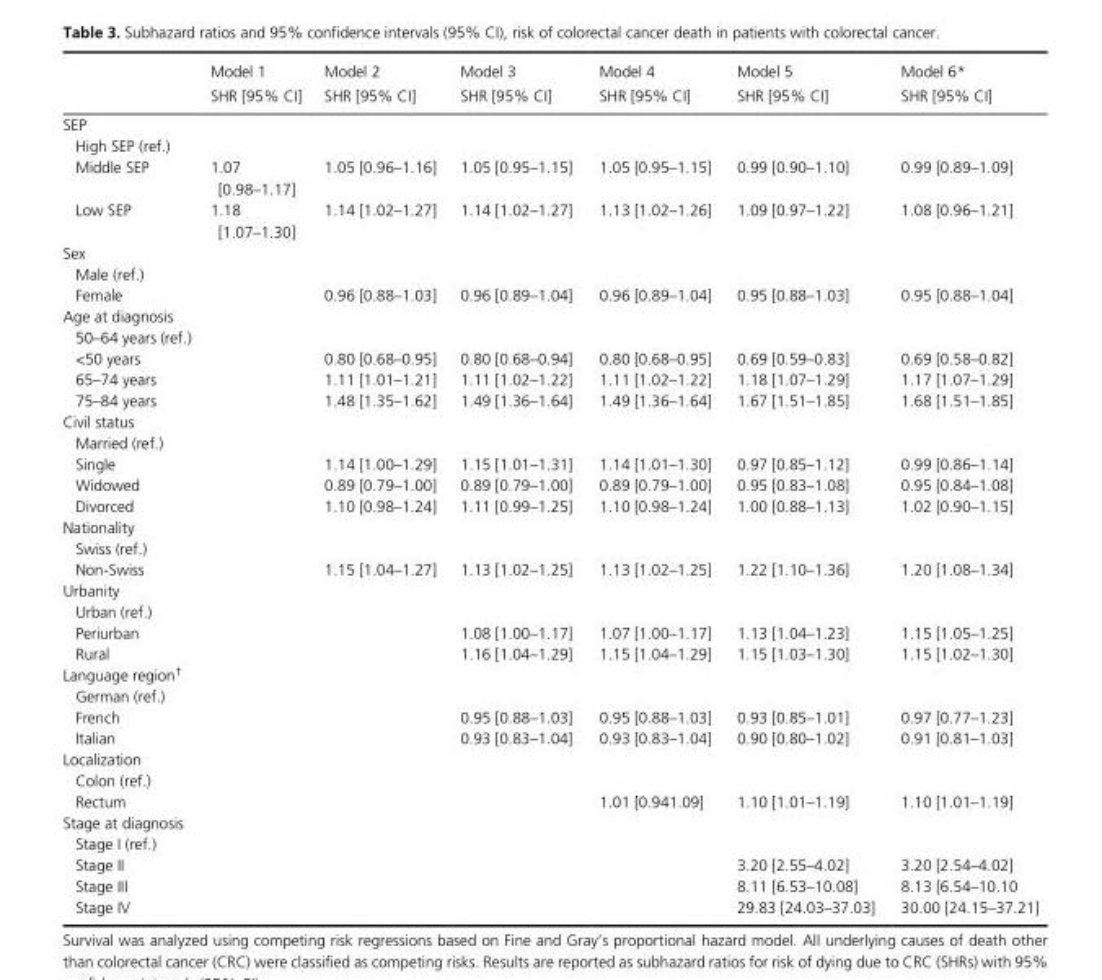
<table><thead><tr><td rowspan="2"></td><td rowspan="2">Model 1 SHR [95% CI]</td><td rowspan="2">Model 2 SHR [95% CI]</td><td rowspan="2">Model 3 SHR [95% CI]</td><td rowspan="2">Model 4 SHR [95% CI]</td><td rowspan="2">Model 5 SHR [95% CI]</td><td rowspan="2">Model 6* SHR [95% CI]</td></tr><tr></tr></thead><tbody><tr><td colspan="7">SEP</td></tr><tr><td colspan="7">High SEP (ref.)</td></tr><tr><td>Middle SEP</td><td>1.07 [0.98–1.17]</td><td>1.05 [0.96–1.16]</td><td>1.05 [0.95–1.15]</td><td>1.05 [0.95–1.15]</td><td>0.99 [0.90–1.10]</td><td>0.99 [0.89–1.09]</td></tr><tr><td>Low SEP</td><td>1.18 [1.07–1.30]</td><td>1.14 [1.02–1.27]</td><td>1.14 [1.02–1.27]</td><td>1.13 [1.02–1.26]</td><td>1.09 [0.97–1.22]</td><td>1.08 [0.96–1.21]</td></tr><tr><td colspan="7">Sex</td></tr><tr><td colspan="7">Male (ref.)</td></tr><tr><td>Female</td><td></td><td>0.96 [0.88–1.03]</td><td>0.96 [0.89–1.04]</td><td>0.96 [0.89–1.04]</td><td>0.95 [0.88–1.03]</td><td>0.95 [0.88–1.04]</td></tr><tr><td colspan="7">Age at diagnosis</td></tr><tr><td colspan="7">50–64 years (ref.)</td></tr><tr><td>&lt;50 years</td><td></td><td>0.80 [0.68–0.95]</td><td>0.80 [0.68–0.94]</td><td>0.80 [0.68–0.95]</td><td>0.69 [0.59–0.83]</td><td>0.69 [0.58–0.82]</td></tr><tr><td>65–74 years</td><td></td><td>1.11 [1.01–1.21]</td><td>1.11 [1.02–1.22]</td><td>1.11 [1.02–1.22]</td><td>1.18 [1.07–1.29]</td><td>1.17 [1.07–1.29]</td></tr><tr><td>75–84 years</td><td></td><td>1.48 [1.35–1.62]</td><td>1.49 [1.36–1.64]</td><td>1.49 [1.36–1.64]</td><td>1.67 [1.51–1.85]</td><td>1.68 [1.51–1.85]</td></tr><tr><td colspan="7">Civil status</td></tr><tr><td colspan="7">Married (ref.)</td></tr><tr><td>Single</td><td></td><td>1.14 [1.00–1.29]</td><td>1.15 [1.01–1.31]</td><td>1.14 [1.01–1.30]</td><td>0.97 [0.85–1.12]</td><td>0.99 [0.86–1.14]</td></tr><tr><td>Widowed</td><td></td><td>0.89 [0.79–1.00]</td><td>0.89 [0.79–1.00]</td><td>0.89 [0.79–1.00]</td><td>0.95 [0.83–1.08]</td><td>0.95 [0.84–1.08]</td></tr><tr><td>Divorced</td><td></td><td>1.10 [0.98–1.24]</td><td>1.11 [0.99–1.25]</td><td>1.10 [0.98–1.24]</td><td>1.00 [0.88–1.13]</td><td>1.02 [0.90–1.15]</td></tr><tr><td colspan="7">Nationality</td></tr><tr><td colspan="7">Swiss (ref.)</td></tr><tr><td>Non- Swiss</td><td></td><td>1.15 [1.04–1.27]</td><td>1.13 [1.02–1.25]</td><td>1.13 [1.02–1.25]</td><td>1.22 [1.10–1.36]</td><td>1.20 [1.08–1.34]</td></tr><tr><td colspan="7">Urbanity</td></tr><tr><td colspan="7">Urban (ref.)</td></tr><tr><td>Periurban</td><td></td><td></td><td>1.08 [1.00–1.17]</td><td>1.07 [1.00–1.17]</td><td>1.13 [1.04–1.23]</td><td>1.15 [1.05–1.25]</td></tr><tr><td>Rural</td><td></td><td></td><td>1.16 [1.04–1.29]</td><td>1.15 [1.04–1.29]</td><td>1.15 [1.03–1.30]</td><td>1.15 [1.02–1.30]</td></tr><tr><td colspan="7">Language region†</td></tr><tr><td colspan="7">German (ref.)</td></tr><tr><td>French</td><td></td><td></td><td>0.95 [0.88–1.03]</td><td>0.95 [0.88–1.03]</td><td>0.93 [0.85–1.01]</td><td>0.97 [0.77–1.23]</td></tr><tr><td>Italian</td><td></td><td></td><td>0.93 [0.83–1.04]</td><td>0.93 [0.83–1.04]</td><td>0.90 [0.80–1.02]</td><td>0.91 [0.81–1.03]</td></tr><tr><td colspan="7">Localization</td></tr><tr><td colspan="7">Colon (ref.)</td></tr><tr><td>Rectum</td><td></td><td></td><td></td><td>1.01 [0.941.09]</td><td>1.10 [1.01–1.19]</td><td>1.10 [1.01–1.19]</td></tr><tr><td colspan="7">Stage at diagnosis</td></tr><tr><td colspan="7">Stage I (ref.)</td></tr><tr><td>Stage II</td><td></td><td></td><td></td><td></td><td>3.20 [2.55–4.02]</td><td>3.20 [2.54–4.02]</td></tr><tr><td>Stage III</td><td></td><td></td><td></td><td></td><td>8.11 [6.53–10.08]</td><td>8.13 [6.54–10.10</td></tr><tr><td>Stage IV</td><td></td><td></td><td></td><td></td><td>29.83 [24.03–37.03]</td><td>30.00 [24.15–37.21]</td></tr></tbody></table>